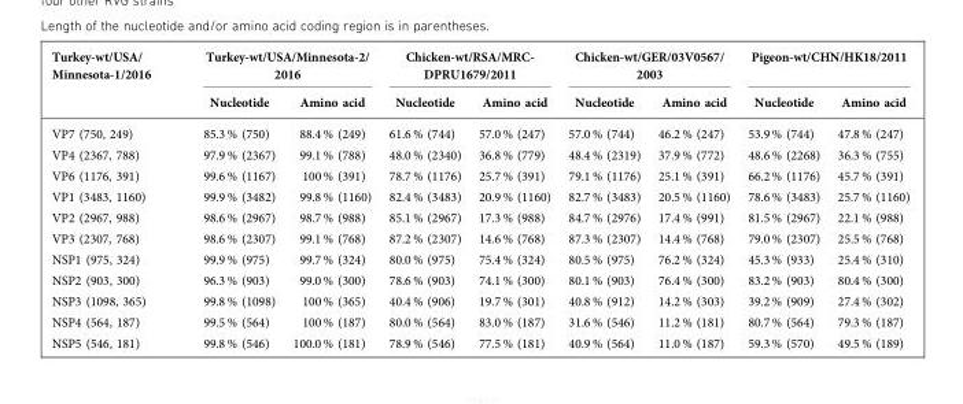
<table><thead><tr><td rowspan="2">Turkey-wt/USA/ Minnesota-1/2016</td><td colspan="2">Turkey-wt/USA/Minnesota-2/ 2016</td><td colspan="2">Chicken-wt/RSA/MRC- DPRU1679/2011</td><td colspan="2">Chicken-wt/GER/03V0567/ 2003</td><td colspan="2">Pigeon-wt/CHN/HK18/2011</td></tr><tr><td>Nucleotide</td><td>Amino acid</td><td>Nucleotide</td><td>Amino acid</td><td>Nucleotide</td><td>Amino acid</td><td>Nucleotide</td><td>Amino acid</td></tr></thead><tbody><tr><td>VP7 (750, 249)</td><td>85.3 % (750)</td><td>88.4 % (249)</td><td>61.6 % (744)</td><td>57.0 % (247)</td><td>57.0 % (744)</td><td>46.2 % (247)</td><td>53.9 % (744)</td><td>47.8 % (247)</td></tr><tr><td>VP4 (2367, 788)</td><td>97.9 % (2367)</td><td>99.1 % (788)</td><td>48.0 % (2340)</td><td>36.8 % (779)</td><td>48.4 % (2319)</td><td>37.9 % (772)</td><td>48.6 % (2268)</td><td>36.3 % (755)</td></tr><tr><td>VP6 (1176, 391)</td><td>99.6 % (1167)</td><td>100 % (391)</td><td>78.7 % (1176)</td><td>25.7 % (391)</td><td>79.1 % (1176)</td><td>25.1 % (391)</td><td>66.2 % (1176)</td><td>45.7 % (391)</td></tr><tr><td>VP1 (3483, 1160)</td><td>99.9 % (3482)</td><td>99.8 % (1160)</td><td>82.4 % (3483)</td><td>20.9 % (1160)</td><td>82.7 % (3483)</td><td>20.5 % (1160)</td><td>78.6 % (3483)</td><td>25.7 % (1160)</td></tr><tr><td>VP2 (2967, 988)</td><td>98.6 % (2967)</td><td>98.7 % (988)</td><td>85.1 % (2967)</td><td>17.3 % (988)</td><td>84.7 % (2976)</td><td>17.4 % (991)</td><td>81.5 % (2967)</td><td>22.1 % (988)</td></tr><tr><td>VP3 (2307, 768)</td><td>98.6 % (2307)</td><td>99.1 % (768)</td><td>87.2 % (2307)</td><td>14.6 % (768)</td><td>87.3 % (2307)</td><td>14.4 % (768)</td><td>79.0 % (2307)</td><td>25.5 % (768)</td></tr><tr><td>NSP1 (975, 324)</td><td>99.9 % (975)</td><td>99.7 % (324)</td><td>80.0 % (975)</td><td>75.4 % (324)</td><td>80.5 % (975)</td><td>76.2 % (324)</td><td>45.3 % (933)</td><td>25.4 % (310)</td></tr><tr><td>NSP2 (903, 300)</td><td>96.3 % (903)</td><td>99.0 % (300)</td><td>78.6 % (903)</td><td>74.1 % (300)</td><td>80.1 % (903)</td><td>76.4 % (300)</td><td>83.2 % (903)</td><td>80.4 % (300)</td></tr><tr><td>NSP3 (1098, 365)</td><td>99.8 % (1098)</td><td>100 % (365)</td><td>40.4 % (906)</td><td>19.7 % (301)</td><td>40.8 % (912)</td><td>14.2 % (303)</td><td>39.2 % (909)</td><td>27.4 % (302)</td></tr><tr><td>NSP4 (564, 187)</td><td>99.5 % (564)</td><td>100 % (187)</td><td>80.0 % (564)</td><td>83.0 % (187)</td><td>31.6 % (546)</td><td>11.2 % (181)</td><td>80.7 % (564)</td><td>79.3 % (187)</td></tr><tr><td>NSP5 (546, 181)</td><td>99.8 % (546)</td><td>100.0 % (181)</td><td>78.9 % (546)</td><td>77.5 % (181)</td><td>40.9 % (564)</td><td>11.0 % (187)</td><td>59.3 % (570)</td><td>49.5 % (189)</td></tr></tbody></table>